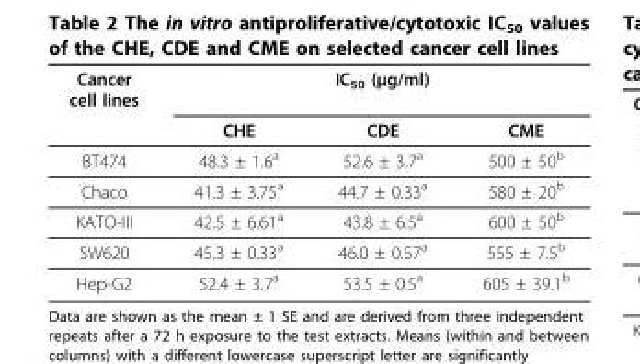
<table><thead><tr><td rowspan="2">Cancer cell lines</td><td colspan="3">IC<sub>50</sub> (μg/ml)</td></tr><tr><td>CHE</td><td>CDE</td><td>CME</td></tr></thead><tbody><tr><td>BT474</td><td>48.3 ± 1.6<sup>a</sup></td><td>52.6 ± 3.7<sup>a</sup></td><td>500 ± 50<sup>b</sup></td></tr><tr><td>Chaco</td><td>41.3 ± 3.75<sup>a</sup></td><td>44.7 ± 0.33<sup>a</sup></td><td>580 ± 20<sup>b</sup></td></tr><tr><td>KATO-III</td><td>42.5 ± 6.61<sup>a</sup></td><td>43.8 ± 6.5<sup>a</sup></td><td>600 ± 50<sup>b</sup></td></tr><tr><td>SW620</td><td>45.3 ± 0.33<sup>a</sup></td><td>46.0 ± 0.57<sup>a</sup></td><td>555 ± 7.5<sup>b</sup></td></tr><tr><td>Hep-G2</td><td>52.4 ± 3.7<sup>a</sup></td><td>53.5 ± 0.5<sup>a</sup></td><td>605 ± 39.1<sup>b</sup></td></tr></tbody></table>